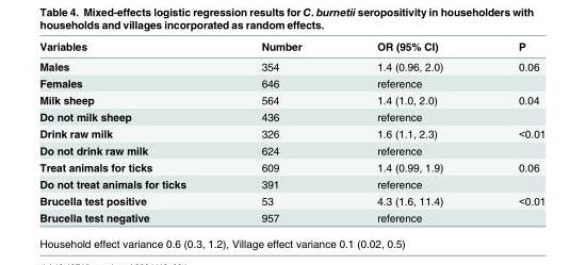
<table><thead><tr><td>Variables</td><td>Number</td><td>OR (95% CI)</td><td>P</td></tr></thead><tbody><tr><td>Males</td><td>354</td><td>1.4 (0.96, 2.0)</td><td>0.06</td></tr><tr><td>Females</td><td>646</td><td>reference</td><td></td></tr><tr><td>Milk sheep</td><td>564</td><td>1.4 (1.0, 2.0)</td><td>0.04</td></tr><tr><td>Do not milk sheep</td><td>436</td><td>reference</td><td></td></tr><tr><td>Drink raw milk</td><td>326</td><td>1.6 (1.1, 2.3)</td><td>&lt;0.01</td></tr><tr><td>Do not drink raw milk</td><td>624</td><td>reference</td><td></td></tr><tr><td>Treat animals for ticks</td><td>609</td><td>1.4 (0.99, 1.9)</td><td>0.06</td></tr><tr><td>Do not treat animals for ticks</td><td>391</td><td>reference</td><td></td></tr><tr><td>Brucella test positive</td><td>53</td><td>4.3 (1.6, 11.4)</td><td>&lt;0.01</td></tr><tr><td>Brucella test negative</td><td>957</td><td>reference</td><td></td></tr></tbody></table>